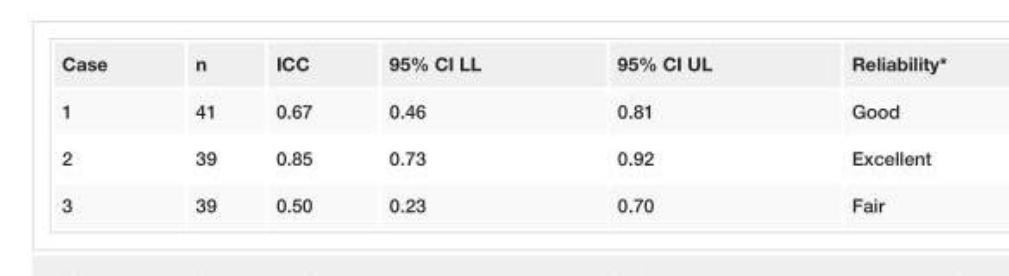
<table><tbody><tr><td>Case</td><td>n</td><td>ICC</td><td>95% CI LL</td><td>95% CI UL</td><td>Reliability*</td></tr><tr><td>1</td><td>41</td><td>0.67</td><td>0.46</td><td>0.81</td><td>Good</td></tr><tr><td>2</td><td>39</td><td>0.85</td><td>0.73</td><td>0.92</td><td>Excellent</td></tr><tr><td>3</td><td>39</td><td>0.50</td><td>0.23</td><td>0.70</td><td>Fair</td></tr></tbody></table>